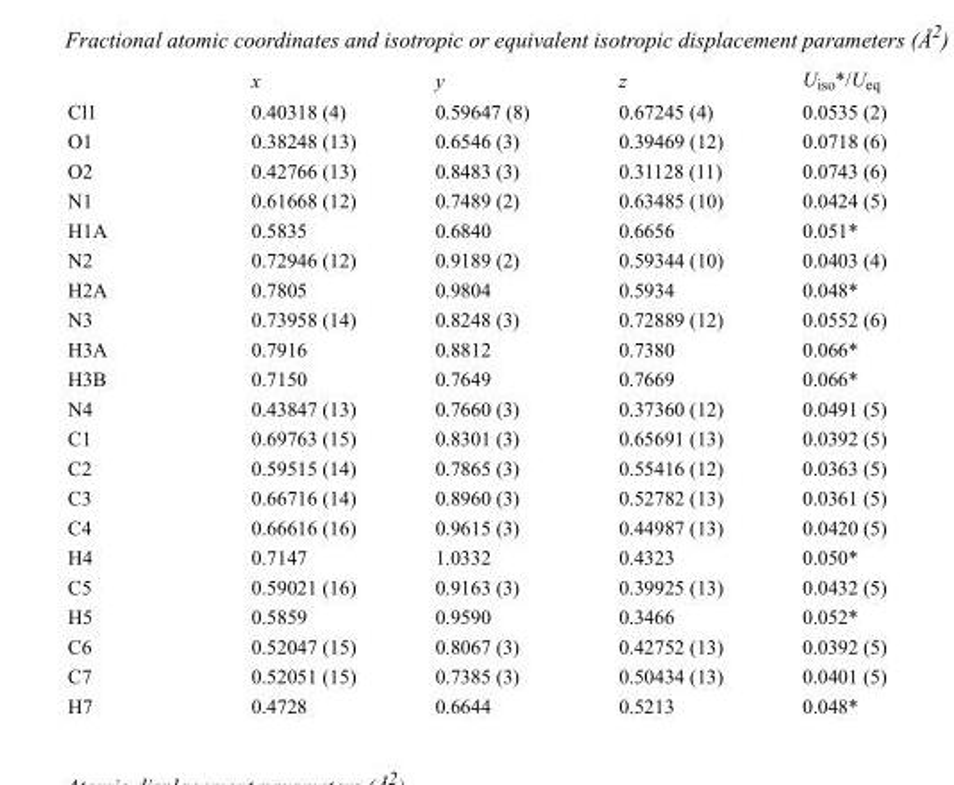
<table><thead><tr><td></td><td>x</td><td>y</td><td>z</td><td>U<sub>iso</sub>*/U<sub>eq</sub></td></tr></thead><tbody><tr><td>Cl1</td><td>0.40318 (4)</td><td>0.59647 (8)</td><td>0.67245 (4)</td><td>0.0535 (2)</td></tr><tr><td>O1</td><td>0.38248 (13)</td><td>0.6546 (3)</td><td>0.39469 (12)</td><td>0.0718 (6)</td></tr><tr><td>O2</td><td>0.42766 (13)</td><td>0.8483 (3)</td><td>0.31128 (11)</td><td>0.0743 (6)</td></tr><tr><td>N1</td><td>0.61668 (12)</td><td>0.7489 (2)</td><td>0.63485 (10)</td><td>0.0424 (5)</td></tr><tr><td>H1A</td><td>0.5835</td><td>0.6840</td><td>0.6656</td><td>0.051*</td></tr><tr><td>N2</td><td>0.72946 (12)</td><td>0.9189 (2)</td><td>0.59344 (10)</td><td>0.0403 (4)</td></tr><tr><td>H2A</td><td>0.7805</td><td>0.9804</td><td>0.5934</td><td>0.048*</td></tr><tr><td>N3</td><td>0.73958 (14)</td><td>0.8248 (3)</td><td>0.72889 (12)</td><td>0.0552 (6)</td></tr><tr><td>H3A</td><td>0.7916</td><td>0.8812</td><td>0.7380</td><td>0.066*</td></tr><tr><td>H3B</td><td>0.7150</td><td>0.7649</td><td>0.7669</td><td>0.066*</td></tr><tr><td>N4</td><td>0.43847 (13)</td><td>0.7660 (3)</td><td>0.37360 (12)</td><td>0.0491 (5)</td></tr><tr><td>C1</td><td>0.69763 (15)</td><td>0.8301 (3)</td><td>0.65691 (13)</td><td>0.0392 (5)</td></tr><tr><td>C2</td><td>0.59515 (14)</td><td>0.7865 (3)</td><td>0.55416 (12)</td><td>0.0363 (5)</td></tr><tr><td>C3</td><td>0.66716 (14)</td><td>0.8960 (3)</td><td>0.52782 (13)</td><td>0.0361 (5)</td></tr><tr><td>C4</td><td>0.66616 (16)</td><td>0.9615 (3)</td><td>0.44987 (13)</td><td>0.0420 (5)</td></tr><tr><td>H4</td><td>0.7147</td><td>1.0332</td><td>0.4323</td><td>0.050*</td></tr><tr><td>C5</td><td>0.59021 (16)</td><td>0.9163 (3)</td><td>0.39925 (13)</td><td>0.0432 (5)</td></tr><tr><td>H5</td><td>0.5859</td><td>0.9590</td><td>0.3466</td><td>0.052*</td></tr><tr><td>C6</td><td>0.52047 (15)</td><td>0.8067 (3)</td><td>0.42752 (13)</td><td>0.0392 (5)</td></tr><tr><td>C7</td><td>0.52051 (15)</td><td>0.7385 (3)</td><td>0.50434 (13)</td><td>0.0401 (5)</td></tr><tr><td>H7</td><td>0.4728</td><td>0.6644</td><td>0.5213</td><td>0.048*</td></tr></tbody></table>